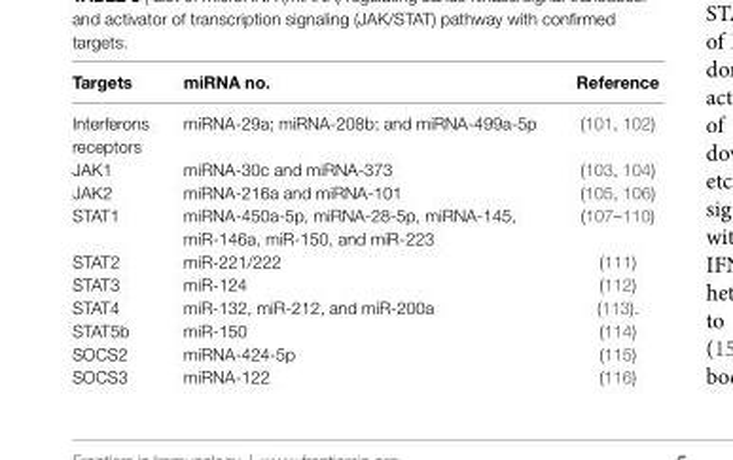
<table><thead><tr><td>Targets</td><td>miRNA no.</td><td>Reference</td></tr></thead><tbody><tr><td>Interferons receptors</td><td>miRNA-29a; miRNA-208b; and miRNA-499a-5p</td><td>(101, 102)</td></tr><tr><td>JAK1</td><td>miRNA-30c and miRNA-373</td><td>(103, 104)</td></tr><tr><td>JAK2</td><td>miRNA-216a and miRNA-101</td><td>(105, 106)</td></tr><tr><td>STAT1</td><td>miRNA-450a-5p, miRNA-28-5p, miRNA-145, miR-146a, miR-150, and miR-223</td><td>(107–110)</td></tr><tr><td>STAT2</td><td>miR-221/222</td><td>(111)</td></tr><tr><td>STAT3</td><td>miR-124</td><td>(112)</td></tr><tr><td>STAT4</td><td>miR-132, miR-212, and miR-200a</td><td>(113).</td></tr><tr><td>STAT5b</td><td>miR-150</td><td>(114)</td></tr><tr><td>SOCS2</td><td>miRNA-424-5p</td><td>(115)</td></tr><tr><td>SOCS3</td><td>miRNA-122</td><td>(116)</td></tr></tbody></table>